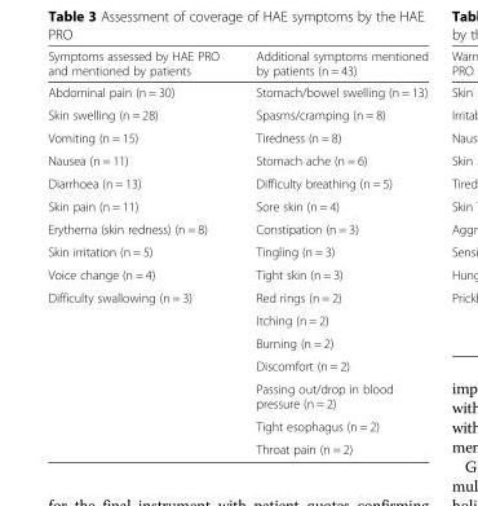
<table><thead><tr><td>Symptoms assessed by HAE PRO and mentioned by patients</td><td>Additional symptoms mentioned by patients (n = 43)</td></tr></thead><tbody><tr><td>Abdominal pain (n = 30)</td><td>Stomach/bowel swelling (n = 13)</td></tr><tr><td>Skin swelling (n = 28)</td><td>Spasms/cramping (n = 8)</td></tr><tr><td>Vomiting (n = 15)</td><td>Tiredness (n = 8)</td></tr><tr><td>Nausea (n = 11)</td><td>Stomach ache (n = 6)</td></tr><tr><td>Diarrhoea (n = 13)</td><td>Difficulty breathing (n = 5)</td></tr><tr><td>Skin pain (n = 11)</td><td>Sore skin (n = 4)</td></tr><tr><td>Erythema (skin redness) (n = 8)</td><td>Constipation (n = 3)</td></tr><tr><td>Skin irritation (n = 5)</td><td>Tingling (n = 3)</td></tr><tr><td>Voice change (n = 4)</td><td>Tight skin (n = 3)</td></tr><tr><td rowspan="7">Difficulty swallowing (n = 3)</td><td>Red rings (n = 2)</td></tr><tr><td>Itching (n = 2)</td></tr><tr><td>Burning (n = 2)</td></tr><tr><td>Discomfort (n = 2)</td></tr><tr><td>Passing out/drop in blood pressure (n = 2)</td></tr><tr><td>Tight esophagus (n = 2)</td></tr><tr><td>Throat pain (n = 2)</td></tr></tbody></table>